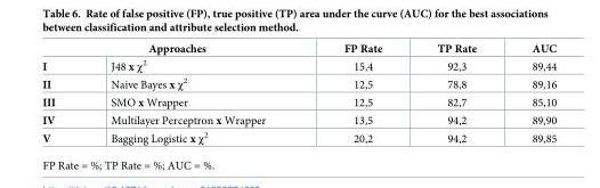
<table><thead><tr><td colspan="2">Approaches</td><td rowspan="2">FP Rate 15,4</td><td rowspan="2">TP Rate 92,3</td><td rowspan="2">AUC 89,44</td></tr><tr><td>I</td><td>J48 x χ<sup>2</sup></td></tr></thead><tbody><tr><td>II</td><td>Naive Bayes x χ<sup>2</sup></td><td>12,5</td><td>78,8</td><td>89,16</td></tr><tr><td>III</td><td>SMO x Wrapper</td><td>12,5</td><td>82,7</td><td>85,10</td></tr><tr><td>IV</td><td>Multilayer Perceptron x Wrapper</td><td>13,5</td><td>94,2</td><td>89,90</td></tr><tr><td>V</td><td>Bagging Logistic x χ<sup>2</sup></td><td>20,2</td><td>94,2</td><td>89,85</td></tr></tbody></table>